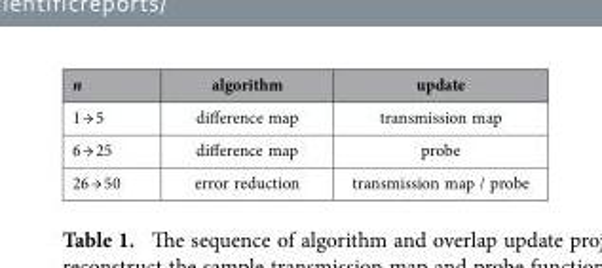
<table><thead><tr><td>n</td><td>algorithm</td><td>update</td></tr></thead><tbody><tr><td>1 → 5</td><td>difference map</td><td>transmission map</td></tr><tr><td>6 → 25</td><td>difference map</td><td>probe</td></tr><tr><td>26 → 50</td><td>error reduction</td><td>transmission map / probe</td></tr></tbody></table>